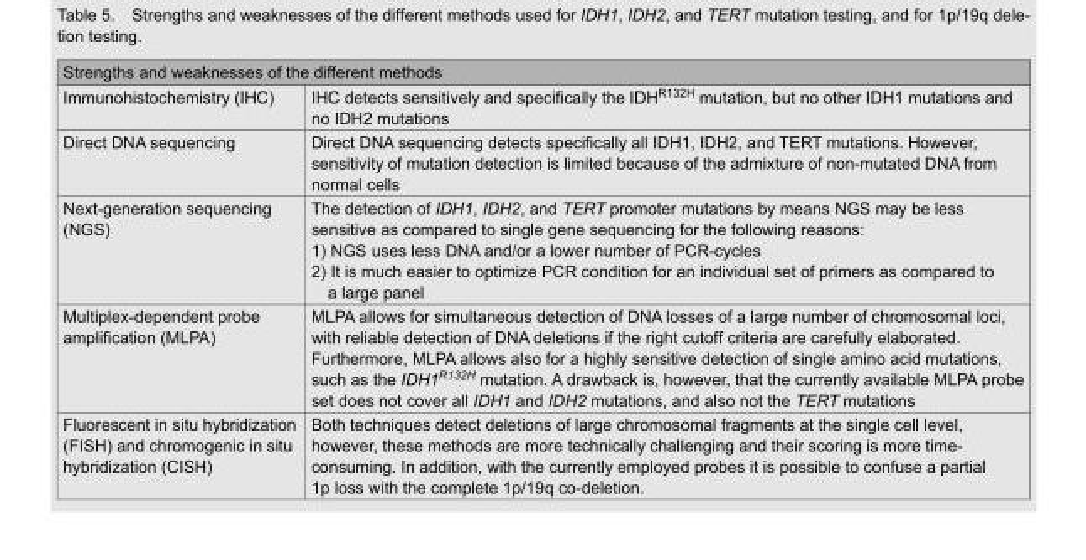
<table><thead><tr><td colspan="2">Strengths and weaknesses of the different methods</td></tr><tr><td>Immunohistochemistry (IHC)</td><td>IHC detects sensitively and specifically the IDH<sup>R132H</sup> mutation, but no other IDH1 mutations and no IDH2 mutations</td></tr></thead><tbody><tr><td>Direct DNA sequencing</td><td>Direct DNA sequencing detects specifically all IDH1, IDH2, and TERT mutations. However, sensitivity of mutation detection is limited because of the admixture of non-mutated DNA from normal cells</td></tr><tr><td>Next-generation sequencing (NGS)</td><td>The detection of IDH1, IDH2, and TERT promoter mutations by means NGS may be less sensitive as compared to single gene sequencing for the following reasons: 1) NGS uses less DNA and/or a lower number of PCR-cycles 2) It is much easier to optimize PCR condition for an individual set of primers as compared to a large panel</td></tr><tr><td>Multiplex-dependent probe amplification (MLPA)</td><td>MLPA allows for simultaneous detection of DNA losses of a large number of chromosomal loci, with reliable detection of DNA deletions if the right cutoff criteria are carefully elaborated. Furthermore, MLPA allows also for a highly sensitive detection of single amino acid mutations, such as the IDH1<sup>R132H</sup> mutation. A drawback is, however, that the currently available MLPA probe set does not cover all IDH1 and IDH2 mutations, and also not the TERT mutations</td></tr><tr><td>Fluorescent in situ hybridization (FISH) and chromogenic in situ hybridization (CISH)</td><td>Both techniques detect deletions of large chromosomal fragments at the single cell level, however, these methods are more technically challenging and their scoring is more time- consuming. In addition, with the currently employed probes it is possible to confuse a partial 1p loss with the complete 1p/19q co-deletion.</td></tr></tbody></table>